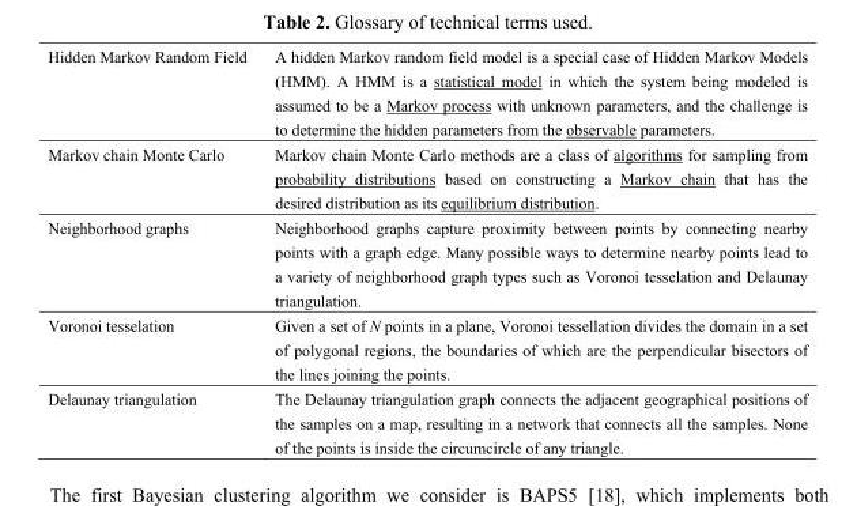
<table><tbody><tr><td>Hidden Markov Random Field</td><td>A hidden Markov random field model is a special case of Hidden Markov Models (HMM). A HMM is a statistical model in which the system being modeled is assumed to be a Markov process with unknown parameters, and the challenge is to determine the hidden parameters from the observable parameters.</td></tr><tr><td>Markov chain Monte Carlo</td><td>Markov chain Monte Carlo methods are a class of algorithms for sampling from probability distributions based on constructing a Markov chain that has the desired distribution as its equilibrium distribution.</td></tr><tr><td>Neighborhood graphs</td><td>Neighborhood graphs capture proximity between points by connecting nearby points with a graph edge. Many possible ways to determine nearby points lead to a variety of neighborhood graph types such as Voronoi tesselation and Delaunay triangulation.</td></tr><tr><td>Voronoi tesselation</td><td>Given a set of N points in a plane, Voronoi tessellation divides the domain in a set of polygonal regions, the boundaries of which are the perpendicular bisectors of the lines joining the points.</td></tr><tr><td>Delaunay triangulation</td><td>The Delaunay triangulation graph connects the adjacent geographical positions of the samples on a map, resulting in a network that connects all the samples. None of the points is inside the circumcircle of any triangle.</td></tr></tbody></table>